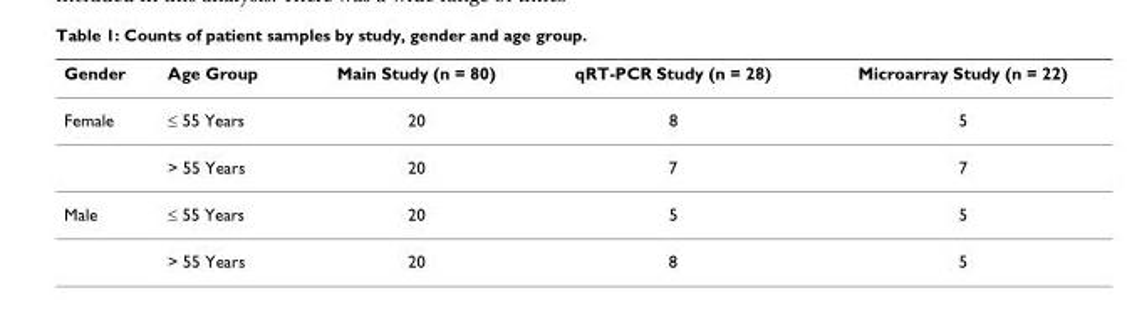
<table><thead><tr><td>Gender</td><td>Age Group</td><td>Main Study (n = 80)</td><td>qRT-PCR Study (n = 28)</td><td>Microarray Study (n = 22)</td></tr></thead><tbody><tr><td rowspan="2">Female</td><td>≤ 55 Years</td><td>20</td><td>8</td><td>5</td></tr><tr><td>&gt; 55 Years</td><td>20</td><td>7</td><td>7</td></tr><tr><td rowspan="2">Male</td><td>≤ 55 Years</td><td>20</td><td>5</td><td>5</td></tr><tr><td>&gt; 55 Years</td><td>20</td><td>8</td><td>5</td></tr></tbody></table>